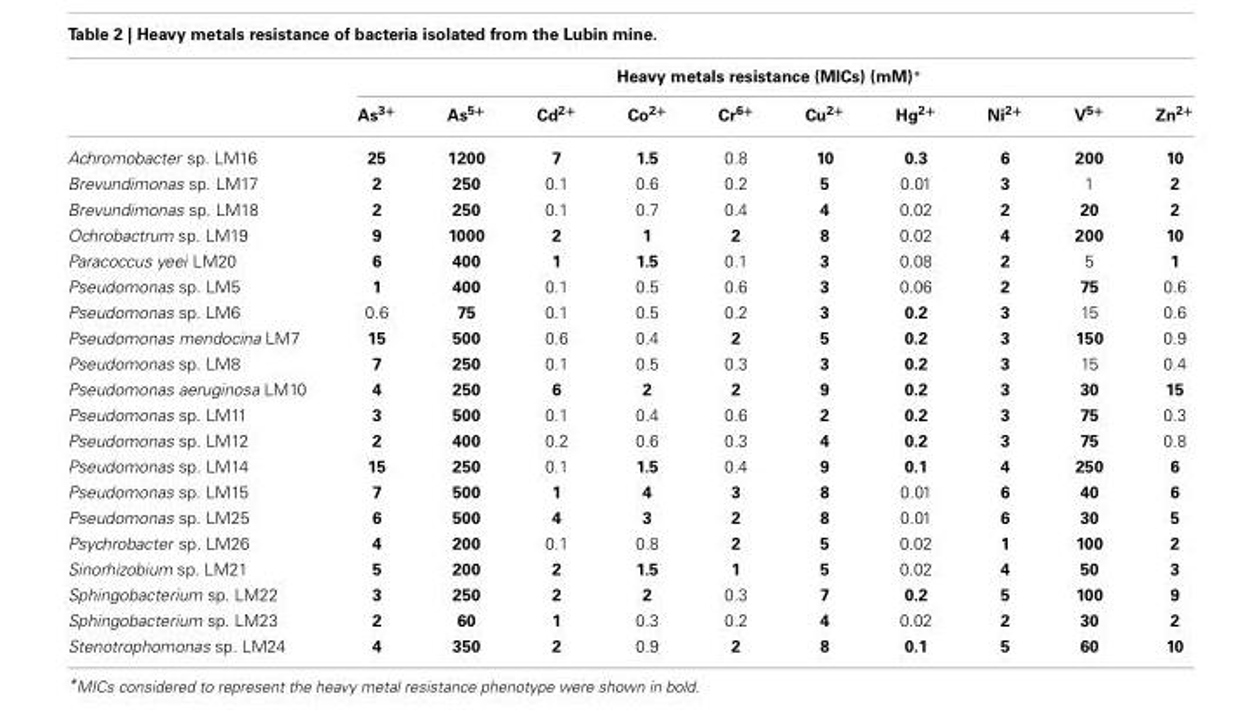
<table><thead><tr><td rowspan="2"></td><td colspan="10">Heavy metals resistance (MICs) (mM)*</td></tr><tr><td>As<sup>3+</sup></td><td>As<sup>5+</sup></td><td>Cd<sup>2+</sup></td><td>Co<sup>2+</sup></td><td>Cr<sup>6+</sup></td><td>Cu<sup>2+</sup></td><td>Hg<sup>2+</sup></td><td>Ni<sup>2+</sup></td><td>V<sup>5+</sup></td><td>Zn<sup>2+</sup></td></tr></thead><tbody><tr><td>Achromobacter sp. LM16</td><td>25</td><td>1200</td><td>7</td><td>1.5</td><td>0.8</td><td>10</td><td>0.3</td><td>6</td><td>200</td><td>10</td></tr><tr><td>Brevundimonas sp. LM17</td><td>2</td><td>250</td><td>0.1</td><td>0.6</td><td>0.2</td><td>5</td><td>0.01</td><td>3</td><td>1</td><td>2</td></tr><tr><td>Brevundimonas sp. LM18</td><td>2</td><td>250</td><td>0.1</td><td>0.7</td><td>0.4</td><td>4</td><td>0.02</td><td>2</td><td>20</td><td>2</td></tr><tr><td>Ochrobactrum sp. LM19</td><td>9</td><td>1000</td><td>2</td><td>1</td><td>2</td><td>8</td><td>0.02</td><td>4</td><td>200</td><td>10</td></tr><tr><td>Paracoccus yeei LM20</td><td>6</td><td>400</td><td>1</td><td>1.5</td><td>0.1</td><td>3</td><td>0.08</td><td>2</td><td>5</td><td>1</td></tr><tr><td>Pseudomonas sp. LM5</td><td>1</td><td>400</td><td>0.1</td><td>0.5</td><td>0.6</td><td>3</td><td>0.06</td><td>2</td><td>75</td><td>0.6</td></tr><tr><td>Pseudomonas sp. LM6</td><td>0.6</td><td>75</td><td>0.1</td><td>0.5</td><td>0.2</td><td>3</td><td>0.2</td><td>3</td><td>15</td><td>0.6</td></tr><tr><td>Pseudomonas mendocina LM7</td><td>15</td><td>500</td><td>0.6</td><td>0.4</td><td>2</td><td>5</td><td>0.2</td><td>3</td><td>150</td><td>0.9</td></tr><tr><td>Pseudomonas sp. LM8</td><td>7</td><td>250</td><td>0.1</td><td>0.5</td><td>0.3</td><td>3</td><td>0.2</td><td>3</td><td>15</td><td>0.4</td></tr><tr><td>Pseudomonas aeruginosa LM10</td><td>4</td><td>250</td><td>6</td><td>2</td><td>2</td><td>9</td><td>0.2</td><td>3</td><td>30</td><td>15</td></tr><tr><td>Pseudomonas sp. LM11</td><td>3</td><td>500</td><td>0.1</td><td>0.4</td><td>0.6</td><td>2</td><td>0.2</td><td>3</td><td>75</td><td>0.3</td></tr><tr><td>Pseudomonas sp. LM12</td><td>2</td><td>400</td><td>0.2</td><td>0.6</td><td>0.3</td><td>4</td><td>0.2</td><td>3</td><td>75</td><td>0.8</td></tr><tr><td>Pseudomonas sp. LM14</td><td>15</td><td>250</td><td>0.1</td><td>1.5</td><td>0.4</td><td>9</td><td>0.1</td><td>4</td><td>250</td><td>6</td></tr><tr><td>Pseudomonas sp. LM15</td><td>7</td><td>500</td><td>1</td><td>4</td><td>3</td><td>8</td><td>0.01</td><td>6</td><td>40</td><td>6</td></tr><tr><td>Pseudomonas sp. LM25</td><td>6</td><td>500</td><td>4</td><td>3</td><td>2</td><td>8</td><td>0.01</td><td>6</td><td>30</td><td>5</td></tr><tr><td>Psychrobacter sp. LM26</td><td>4</td><td>200</td><td>0.1</td><td>0.8</td><td>2</td><td>5</td><td>0.02</td><td>1</td><td>100</td><td>2</td></tr><tr><td>Sinorhizobium sp. LM21</td><td>5</td><td>200</td><td>2</td><td>1.5</td><td>1</td><td>5</td><td>0.02</td><td>4</td><td>50</td><td>3</td></tr><tr><td>Sphingobacterium sp. LM22</td><td>3</td><td>250</td><td>2</td><td>2</td><td>0.3</td><td>7</td><td>0.2</td><td>5</td><td>100</td><td>9</td></tr><tr><td>Sphingobacterium sp. LM23</td><td>2</td><td>60</td><td>1</td><td>0.3</td><td>0.2</td><td>4</td><td>0.02</td><td>2</td><td>30</td><td>2</td></tr><tr><td>Stenotrophomonas sp. LM24</td><td>4</td><td>350</td><td>2</td><td>0.9</td><td>2</td><td>8</td><td>0.1</td><td>5</td><td>60</td><td>10</td></tr></tbody></table>